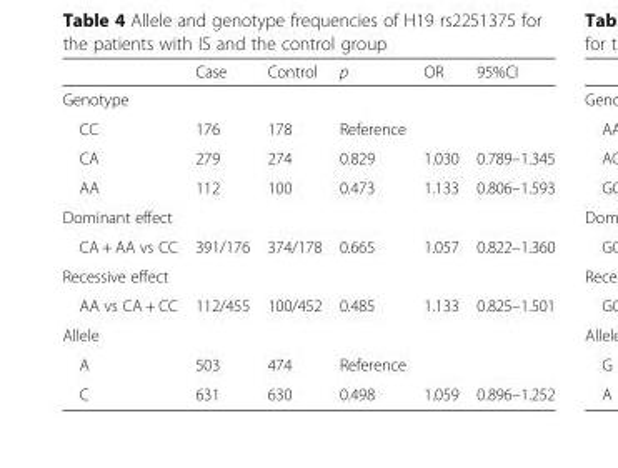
<table><thead><tr><td></td><td>Case</td><td>Control</td><td>p</td><td>OR</td><td>95%CI</td></tr></thead><tbody><tr><td colspan="6">Genotype</td></tr><tr><td>CC</td><td>176</td><td>178</td><td>Reference</td><td></td><td></td></tr><tr><td>CA</td><td>279</td><td>274</td><td>0.829</td><td>1.030</td><td>0.789–1.345</td></tr><tr><td>AA</td><td>112</td><td>100</td><td>0.473</td><td>1.133</td><td>0.806–1.593</td></tr><tr><td colspan="6">Dominant effect</td></tr><tr><td>CA + AA vs CC</td><td>391/176</td><td>374/178</td><td>0.665</td><td>1.057</td><td>0.822–1.360</td></tr><tr><td colspan="6">Recessive effect</td></tr><tr><td>AA vs CA + CC</td><td>112/455</td><td>100/452</td><td>0.485</td><td>1.133</td><td>0.825–1.501</td></tr><tr><td colspan="6">Allele</td></tr><tr><td>A</td><td>503</td><td>474</td><td>Reference</td><td></td><td></td></tr><tr><td>C</td><td>631</td><td>630</td><td>0.498</td><td>1.059</td><td>0.896–1.252</td></tr></tbody></table>